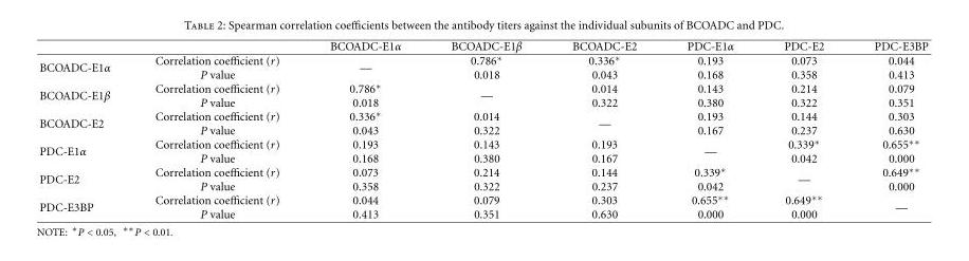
<table><thead><tr><td></td><td></td><td>BCOADC-E1α</td><td>BCOADC-E1β</td><td>BCOADC-E2</td><td>PDC-E1α</td><td>PDC-E2</td><td>PDC-E3BP</td></tr></thead><tbody><tr><td rowspan="2">BCOADC-E1α</td><td>Correlation coefficient (r)</td><td rowspan="2">—</td><td>0.786∗</td><td>0.336∗</td><td>0.193</td><td>0.073</td><td>0.044</td></tr><tr><td>P value</td><td>0.018</td><td>0.043</td><td>0.168</td><td>0.358</td><td>0.413</td></tr><tr><td rowspan="2">BCOADC-E1β</td><td>Correlation coefficient (r)</td><td>0.786∗</td><td rowspan="2">—</td><td>0.014</td><td>0.143</td><td>0.214</td><td>0.079</td></tr><tr><td>P value</td><td>0.018</td><td>0.322</td><td>0.380</td><td>0.322</td><td>0.351</td></tr><tr><td rowspan="2">BCOADC-E2</td><td>Correlation coefficient (r)</td><td>0.336∗</td><td>0.014</td><td rowspan="2">—</td><td>0.193</td><td>0.144</td><td>0.303</td></tr><tr><td>P value</td><td>0.043</td><td>0.322</td><td>0.167</td><td>0.237</td><td>0.630</td></tr><tr><td rowspan="2">PDC-E1α</td><td>Correlation coefficient (r)</td><td>0.193</td><td>0.143</td><td>0.193</td><td rowspan="2">—</td><td>0.339∗</td><td>0.655∗∗</td></tr><tr><td>P value</td><td>0.168</td><td>0.380</td><td>0.167</td><td>0.042</td><td>0.000</td></tr><tr><td rowspan="2">PDC-E2</td><td>Correlation coefficient (r)</td><td>0.073</td><td>0.214</td><td>0.144</td><td>0.339∗</td><td rowspan="2">—</td><td>0.649∗∗</td></tr><tr><td>P value</td><td>0.358</td><td>0.322</td><td>0.237</td><td>0.042</td><td>0.000</td></tr><tr><td rowspan="2">PDC-E3BP</td><td>Correlation coefficient (r)</td><td>0.044</td><td>0.079</td><td>0.303</td><td>0.655∗∗</td><td>0.649∗∗</td><td rowspan="2">—</td></tr><tr><td>P value</td><td>0.413</td><td>0.351</td><td>0.630</td><td>0.000</td><td>0.000</td></tr></tbody></table>